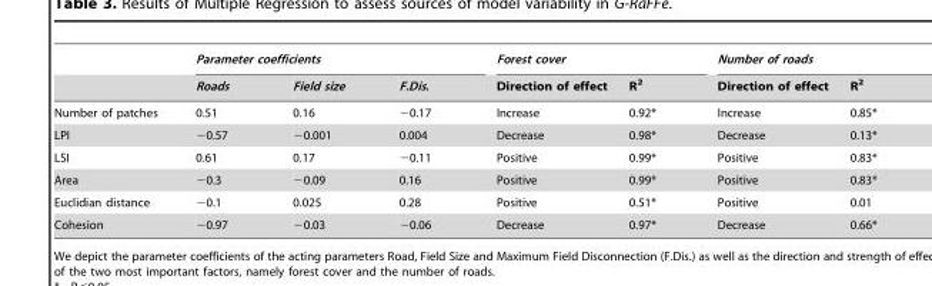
<table><thead><tr><td rowspan="2"></td><td colspan="3">Parameter coefficients</td><td colspan="2">Forest cover</td><td colspan="2">Number of roads</td></tr><tr><td>Roads</td><td>Field size</td><td>F.Dis.</td><td>Direction of effect</td><td>R<sup>2</sup></td><td>Direction of effect</td><td>R<sup>2</sup></td></tr></thead><tbody><tr><td>Number of patches</td><td>0.51</td><td>0.16</td><td>−0.17</td><td>Increase</td><td>0.92*</td><td>Increase</td><td>0.85*</td></tr><tr><td>LPI</td><td>−0.57</td><td>−0.001</td><td>0.004</td><td>Decrease</td><td>0.98*</td><td>Decrease</td><td>0.13*</td></tr><tr><td>LSI</td><td>0.61</td><td>0.17</td><td>−0.11</td><td>Positive</td><td>0.99*</td><td>Positive</td><td>0.83*</td></tr><tr><td>Area</td><td>−0.3</td><td>−0.09</td><td>0.16</td><td>Positive</td><td>0.99*</td><td>Positive</td><td>0.83*</td></tr><tr><td>Euclidian distance</td><td>−0.1</td><td>0.025</td><td>0.28</td><td>Positive</td><td>0.51*</td><td>Positive</td><td>0.01</td></tr><tr><td>Cohesion</td><td>−0.97</td><td>−0.03</td><td>−0.06</td><td>Decrease</td><td>0.97*</td><td>Decrease</td><td>0.66*</td></tr></tbody></table>